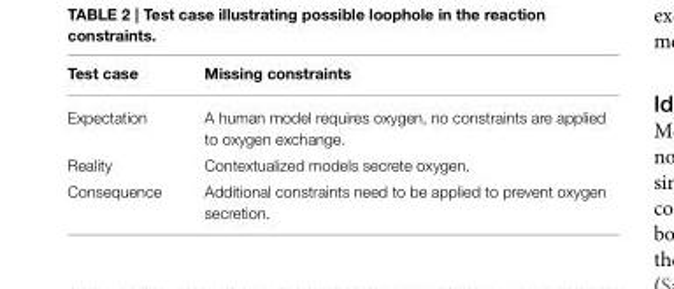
<table><thead><tr><td>Test case</td><td>Missing constraints</td></tr></thead><tbody><tr><td>Expectation</td><td>A human model requires oxygen, no constraints are applied to oxygen exchange.</td></tr><tr><td>Reality</td><td>Contextualized models secrete oxygen.</td></tr><tr><td>Consequence</td><td>Additional constraints need to be applied to prevent oxygen secretion.</td></tr></tbody></table>